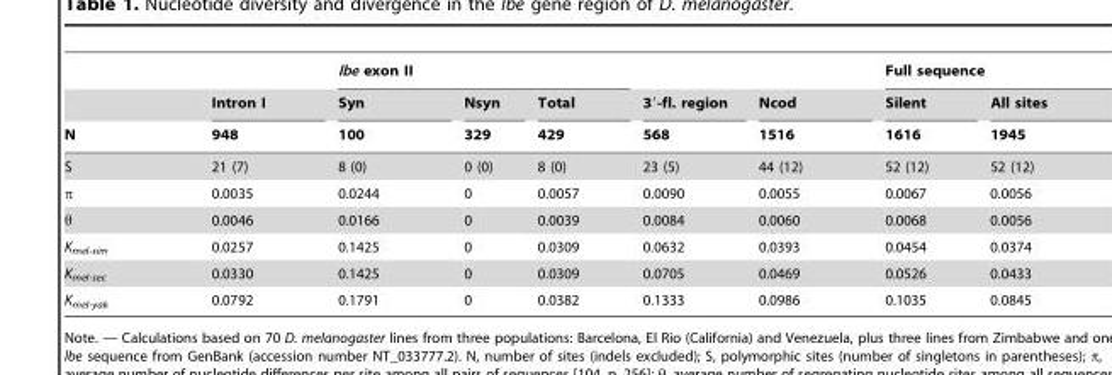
<table><thead><tr><td rowspan="3">N</td><td rowspan="3">Intron I 948</td><td colspan="3">lbe exon II</td><td rowspan="3">3′-fl. region 568</td><td rowspan="3">Ncod 1516</td><td colspan="2">Full sequence</td></tr><tr><td rowspan="2">Syn 100</td><td rowspan="2">Nsyn 329</td><td rowspan="2">Total 429</td><td rowspan="2">Silent 1616</td><td rowspan="2">All sites 1945</td></tr><tr></tr></thead><tbody><tr><td>S</td><td>21 (7)</td><td>8 (0)</td><td>0 (0)</td><td>8 (0)</td><td>23 (5)</td><td>44 (12)</td><td>52 (12)</td><td>52 (12)</td></tr><tr><td>π</td><td>0.0035</td><td>0.0244</td><td>0</td><td>0.0057</td><td>0.0090</td><td>0.0055</td><td>0.0067</td><td>0.0056</td></tr><tr><td>θ</td><td>0.0046</td><td>0.0166</td><td>0</td><td>0.0039</td><td>0.0084</td><td>0.0060</td><td>0.0068</td><td>0.0056</td></tr><tr><td>K<sub>mel-sim</sub></td><td>0.0257</td><td>0.1425</td><td>0</td><td>0.0309</td><td>0.0632</td><td>0.0393</td><td>0.0454</td><td>0.0374</td></tr><tr><td>K<sub>mel-sec</sub></td><td>0.0330</td><td>0.1425</td><td>0</td><td>0.0309</td><td>0.0705</td><td>0.0469</td><td>0.0526</td><td>0.0433</td></tr><tr><td>K<sub>mel-yak</sub></td><td>0.0792</td><td>0.1791</td><td>0</td><td>0.0382</td><td>0.1333</td><td>0.0986</td><td>0.1035</td><td>0.0845</td></tr></tbody></table>